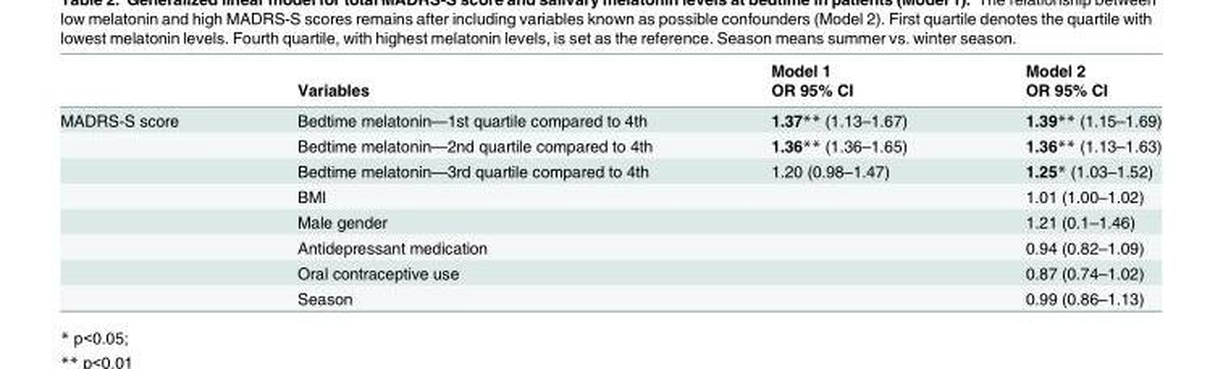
<table><thead><tr><td rowspan="2"></td><td rowspan="2">Variables</td><td rowspan="2">Model 1 OR 95% CI</td><td rowspan="2">Model 2 OR 95% CI</td></tr><tr></tr></thead><tbody><tr><td rowspan="8">MADRS-S score</td><td>Bedtime melatonin—1st quartile compared to 4th</td><td>1.37** (1.13–1.67)</td><td>1.39** (1.15–1.69)</td></tr><tr><td>Bedtime melatonin—2nd quartile compared to 4th</td><td>1.36** (1.36–1.65)</td><td>1.36** (1.13–1.63)</td></tr><tr><td>Bedtime melatonin—3rd quartile compared to 4th</td><td>1.20 (0.98–1.47)</td><td>1.25* (1.03–1.52)</td></tr><tr><td>BMI</td><td></td><td>1.01 (1.00–1.02)</td></tr><tr><td>Male gender</td><td></td><td>1.21 (0.1–1.46)</td></tr><tr><td>Antidepressant medication</td><td></td><td>0.94 (0.82–1.09)</td></tr><tr><td>Oral contraceptive use</td><td></td><td>0.87 (0.74–1.02)</td></tr><tr><td>Season</td><td></td><td>0.99 (0.86–1.13)</td></tr></tbody></table>